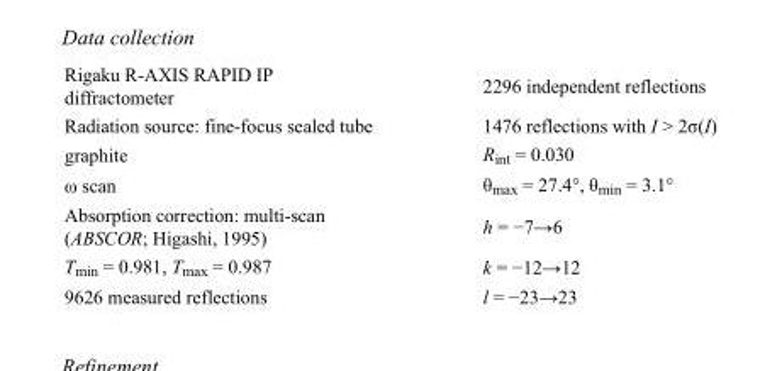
<table><tbody><tr><td>Rigaku R-AXIS RAPID IP diffractometer</td><td>2296 independent reflections</td></tr><tr><td>Radiation source: fine-focus sealed tube</td><td>1476 reflections with I &gt; 2σ(I)</td></tr><tr><td>graphite</td><td>R<sub>int</sub> = 0.030</td></tr><tr><td>ω scan</td><td>θ<sub>max</sub> = 27.4°, θ<sub>min</sub> = 3.1°</td></tr><tr><td>Absorption correction: multi-scan (ABSCOR; Higashi, 1995)</td><td>h = −7→6</td></tr><tr><td>T<sub>min</sub> = 0.981, T<sub>max</sub> = 0.987</td><td>k = −12→12</td></tr><tr><td>9626 measured reflections</td><td>l = −23→23</td></tr></tbody></table>